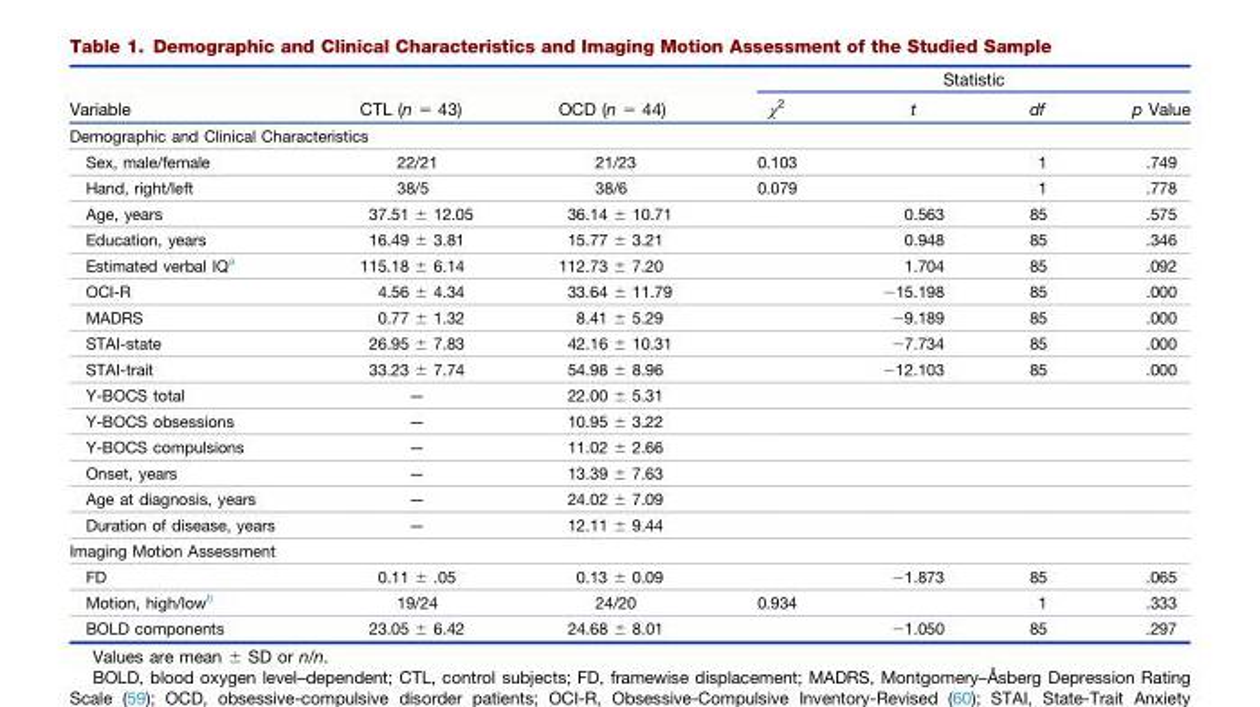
<table><thead><tr><td rowspan="2">Variable</td><td rowspan="2">CTL (n = 43)</td><td rowspan="2">OCD (n = 44)</td><td colspan="4">Statistic</td></tr><tr><td>χ<sup>2</sup></td><td>t</td><td>df</td><td>p Value</td></tr></thead><tbody><tr><td colspan="7">Demographic and Clinical Characteristics</td></tr><tr><td>Sex, male/female</td><td>22/21</td><td>21/23</td><td>0.103</td><td></td><td>1</td><td>.749</td></tr><tr><td>Hand, right/left</td><td>38/5</td><td>38/6</td><td>0.079</td><td></td><td>1</td><td>.778</td></tr><tr><td>Age, years</td><td>37.51 ± 12.05</td><td>36.14 ± 10.71</td><td></td><td>0.563</td><td>85</td><td>.575</td></tr><tr><td>Education, years</td><td>16.49 ± 3.81</td><td>15.77 ± 3.21</td><td></td><td>0.948</td><td>85</td><td>.346</td></tr><tr><td>Estimated verbal IQ<sup>a</sup></td><td>115.18 ± 6.14</td><td>112.73 ± 7.20</td><td></td><td>1.704</td><td>85</td><td>.092</td></tr><tr><td>OCI-R</td><td>4.56 ± 4.34</td><td>33.64 ± 11.79</td><td></td><td>−15.198</td><td>85</td><td>.000</td></tr><tr><td>MADRS</td><td>0.77 ± 1.32</td><td>8.41 ± 5.29</td><td></td><td>−9.189</td><td>85</td><td>.000</td></tr><tr><td>STAI-state</td><td>26.95 ± 7.83</td><td>42.16 ± 10.31</td><td></td><td>−7.734</td><td>85</td><td>.000</td></tr><tr><td>STAI-trait</td><td>33.23 ± 7.74</td><td>54.98 ± 8.96</td><td></td><td>−12.103</td><td>85</td><td>.000</td></tr><tr><td>Y-BOCS total</td><td>—</td><td>22.00 ± 5.31</td><td></td><td></td><td></td><td></td></tr><tr><td>Y-BOCS obsessions</td><td>—</td><td>10.95 ± 3.22</td><td></td><td></td><td></td><td></td></tr><tr><td>Y-BOCS compulsions</td><td>—</td><td>11.02 ± 2.66</td><td></td><td></td><td></td><td></td></tr><tr><td>Onset, years</td><td>—</td><td>13.39 ± 7.63</td><td></td><td></td><td></td><td></td></tr><tr><td>Age at diagnosis, years</td><td>—</td><td>24.02 ± 7.09</td><td></td><td></td><td></td><td></td></tr><tr><td>Duration of disease, years</td><td>—</td><td>12.11 ± 9.44</td><td></td><td></td><td></td><td></td></tr><tr><td colspan="7">Imaging Motion Assessment</td></tr><tr><td>FD</td><td>0.11 ± .05</td><td>0.13 ± 0.09</td><td></td><td>−1.873</td><td>85</td><td>.065</td></tr><tr><td>Motion, high/low<sup>b</sup></td><td>19/24</td><td>24/20</td><td>0.934</td><td></td><td>1</td><td>.333</td></tr><tr><td>BOLD components</td><td>23.05 ± 6.42</td><td>24.68 ± 8.01</td><td></td><td>−1.050</td><td>85</td><td>.297</td></tr></tbody></table>